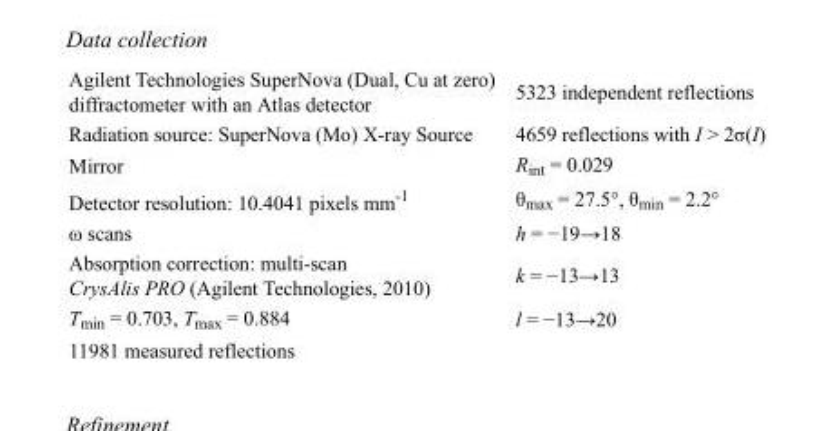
<table><tbody><tr><td>Agilent Technologies SuperNova (Dual, Cu at zero) diffractometer with an Atlas detector</td><td>5323 independent reflections</td></tr><tr><td>Radiation source: SuperNova (Mo) X-ray Source</td><td>4659 reflections with I &gt; 2σ(I)</td></tr><tr><td>Mirror</td><td>R<sub>int</sub> = 0.029</td></tr><tr><td>Detector resolution: 10.4041 pixels mm<sup>-1</sup></td><td>θ<sub>max</sub> = 27.5°, θ<sub>min</sub> = 2.2°</td></tr><tr><td>ω scans</td><td>h = −19→18</td></tr><tr><td>Absorption correction: multi-scan CrysAlis PRO (Agilent Technologies, 2010)</td><td>k = −13→13</td></tr><tr><td>T<sub>min</sub> = 0.703, T<sub>max</sub> = 0.884</td><td>l = −13→20</td></tr><tr><td>11981 measured reflections</td><td></td></tr></tbody></table>